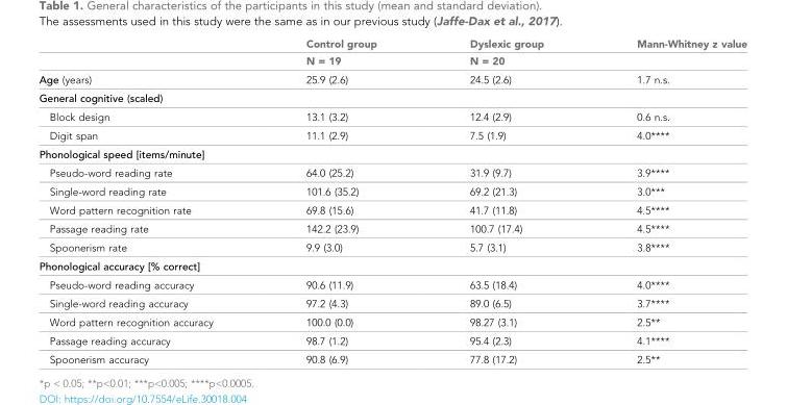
<table><thead><tr><td rowspan="2"></td><td rowspan="2">Control group N = 19</td><td rowspan="2">Dyslexic group N = 20</td><td rowspan="2">Mann-Whitney z value</td></tr><tr></tr></thead><tbody><tr><td>Age (years)</td><td>25.9 (2.6)</td><td>24.5 (2.6)</td><td>1.7 n.s.</td></tr><tr><td colspan="4">General cognitive (scaled)</td></tr><tr><td>Block design</td><td>13.1 (3.2)</td><td>12.4 (2.9)</td><td>0.6 n.s.</td></tr><tr><td>Digit span</td><td>11.1 (2.9)</td><td>7.5 (1.9)</td><td>4.0****</td></tr><tr><td colspan="4">Phonological speed [items/minute]</td></tr><tr><td>Pseudo-word reading rate</td><td>64.0 (25.2)</td><td>31.9 (9.7)</td><td>3.9****</td></tr><tr><td>Single-word reading rate</td><td>101.6 (35.2)</td><td>69.2 (21.3)</td><td>3.0***</td></tr><tr><td>Word pattern recognition rate</td><td>69.8 (15.6)</td><td>41.7 (11.8)</td><td>4.5****</td></tr><tr><td>Passage reading rate</td><td>142.2 (23.9)</td><td>100.7 (17.4)</td><td>4.5****</td></tr><tr><td>Spoonerism rate</td><td>9.9 (3.0)</td><td>5.7 (3.1)</td><td>3.8****</td></tr><tr><td colspan="4">Phonological accuracy [% correct]</td></tr><tr><td>Pseudo-word reading accuracy</td><td>90.6 (11.9)</td><td>63.5 (18.4)</td><td>4.0****</td></tr><tr><td>Single-word reading accuracy</td><td>97.2 (4.3)</td><td>89.0 (6.5)</td><td>3.7****</td></tr><tr><td>Word pattern recognition accuracy</td><td>100.0 (0.0)</td><td>98.27 (3.1)</td><td>2.5**</td></tr><tr><td>Passage reading accuracy</td><td>98.7 (1.2)</td><td>95.4 (2.3)</td><td>4.1****</td></tr><tr><td>Spoonerism accuracy</td><td>90.8 (6.9)</td><td>77.8 (17.2)</td><td>2.5**</td></tr></tbody></table>